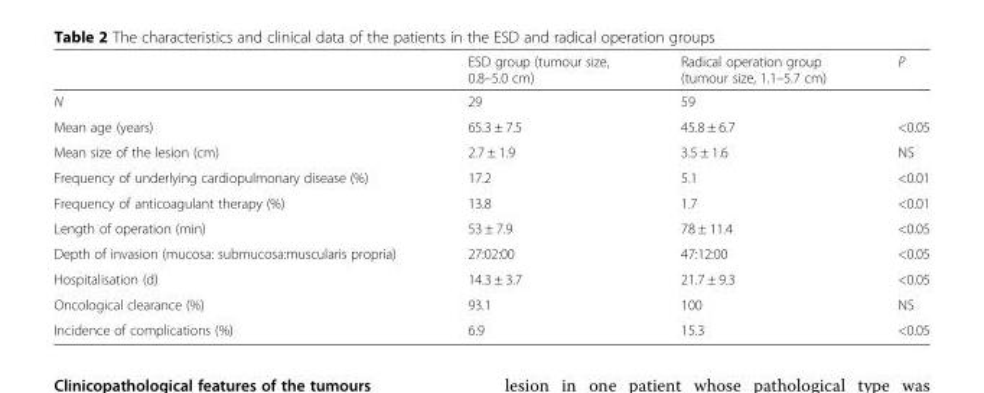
<table><thead><tr><td></td><td>ESD group (tumour size, 0.8–5.0 cm)</td><td>Radical operation group (tumour size, 1.1–5.7 cm)</td><td>P</td></tr></thead><tbody><tr><td>N</td><td>29</td><td>59</td><td></td></tr><tr><td>Mean age (years)</td><td>65.3 ± 7.5</td><td>45.8 ± 6.7</td><td>&lt;0.05</td></tr><tr><td>Mean size of the lesion (cm)</td><td>2.7 ± 1.9</td><td>3.5 ± 1.6</td><td>NS</td></tr><tr><td>Frequency of underlying cardiopulmonary disease (%)</td><td>17.2</td><td>5.1</td><td>&lt;0.01</td></tr><tr><td>Frequency of anticoagulant therapy (%)</td><td>13.8</td><td>1.7</td><td>&lt;0.01</td></tr><tr><td>Length of operation (min)</td><td>53 ± 7.9</td><td>78 ± 11.4</td><td>&lt;0.05</td></tr><tr><td>Depth of invasion (mucosa: submucosa:muscularis propria)</td><td>27:02:00</td><td>47:12:00</td><td>&lt;0.05</td></tr><tr><td>Hospitalisation (d)</td><td>14.3 ± 3.7</td><td>21.7 ± 9.3</td><td>&lt;0.05</td></tr><tr><td>Oncological clearance (%)</td><td>93.1</td><td>100</td><td>NS</td></tr><tr><td>Incidence of complications (%)</td><td>6.9</td><td>15.3</td><td>&lt;0.05</td></tr></tbody></table>